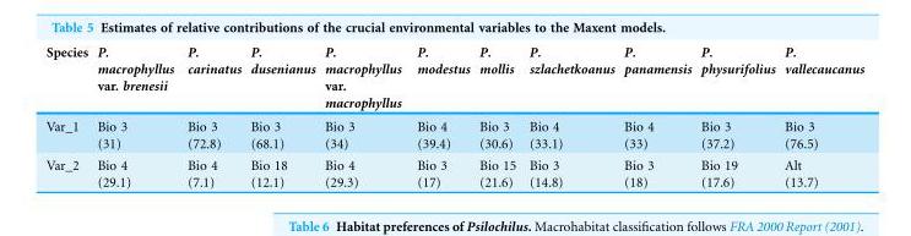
<table><thead><tr><td>Species</td><td>P. macrophyllus var. brenesii</td><td>P. carinatus</td><td>P. dusenianus</td><td>P. macrophyllus var. macrophyllus</td><td>P. modestus</td><td>P. mollis</td><td>P. szlachetkoanus</td><td>P. panamensis</td><td>P. physurifolius</td><td>P. vallecaucanus</td></tr></thead><tbody><tr><td>Var_1</td><td>Bio 3 (31)</td><td>Bio 3 (72.8)</td><td>Bio 3 (68.1)</td><td>Bio 3 (34)</td><td>Bio 4 (39.4)</td><td>Bio 3 (30.6)</td><td>Bio 4 (33.1)</td><td>Bio 4 (33)</td><td>Bio 3 (37.2)</td><td>Bio 3 (76.5)</td></tr><tr><td>Var_2</td><td>Bio 4 (29.1)</td><td>Bio 4 (7.1)</td><td>Bio 18 (12.1)</td><td>Bio 4 (29.3)</td><td>Bio 3 (17)</td><td>Bio 15 (21.6)</td><td>Bio 3 (14.8)</td><td>Bio 3 (18)</td><td>Bio 19 (17.6)</td><td>Alt (13.7)</td></tr></tbody></table>